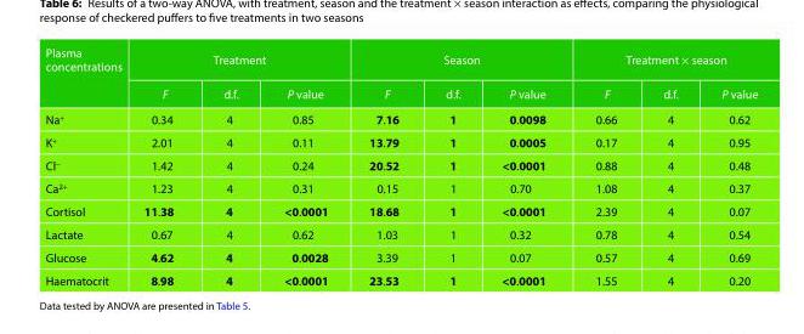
<table><thead><tr><td rowspan="2">Plasma concentrations</td><td colspan="3">Treatment</td><td colspan="3">Season</td><td colspan="3">Treatment × season</td></tr><tr><td>F</td><td>d.f.</td><td>P value</td><td>F</td><td>d.f.</td><td>P value</td><td>F</td><td>d.f.</td><td>P value</td></tr></thead><tbody><tr><td>Na<sup>+</sup></td><td>0.34</td><td>4</td><td>0.85</td><td>7.16</td><td>1</td><td>0.0098</td><td>0.66</td><td>4</td><td>0.62</td></tr><tr><td>K<sup>+</sup></td><td>2.01</td><td>4</td><td>0.11</td><td>13.79</td><td>1</td><td>0.0005</td><td>0.17</td><td>4</td><td>0.95</td></tr><tr><td>Cl<sup>−</sup></td><td>1.42</td><td>4</td><td>0.24</td><td>20.52</td><td>1</td><td>&lt;0.0001</td><td>0.88</td><td>4</td><td>0.48</td></tr><tr><td>Ca<sup>2+</sup></td><td>1.23</td><td>4</td><td>0.31</td><td>0.15</td><td>1</td><td>0.70</td><td>1.08</td><td>4</td><td>0.37</td></tr><tr><td>Cortisol</td><td>11.38</td><td>4</td><td>&lt;0.0001</td><td>18.68</td><td>1</td><td>&lt;0.0001</td><td>2.39</td><td>4</td><td>0.07</td></tr><tr><td>Lactate</td><td>0.67</td><td>4</td><td>0.62</td><td>1.03</td><td>1</td><td>0.32</td><td>0.78</td><td>4</td><td>0.54</td></tr><tr><td>Glucose</td><td>4.62</td><td>4</td><td>0.0028</td><td>3.39</td><td>1</td><td>0.07</td><td>0.57</td><td>4</td><td>0.69</td></tr><tr><td>Haematocrit</td><td>8.98</td><td>4</td><td>&lt;0.0001</td><td>23.53</td><td>1</td><td>&lt;0.0001</td><td>1.55</td><td>4</td><td>0.20</td></tr></tbody></table>